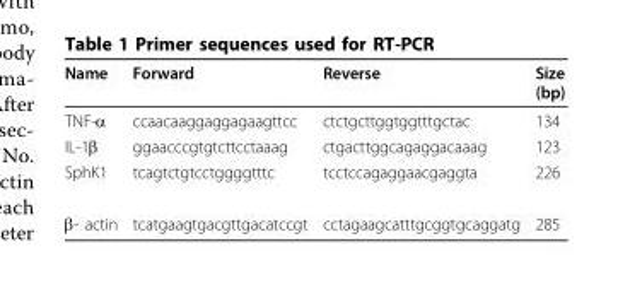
<table><thead><tr><td>Name</td><td>Forward</td><td>Reverse</td><td>Size (bp)</td></tr></thead><tbody><tr><td>TNF-α</td><td>ccaacaaggaggagaagttcc</td><td>ctctgcttggtggtttgctac</td><td>134</td></tr><tr><td>IL-1β</td><td>ggaacccgtgtcttcctaaag</td><td>ctgacttggcagaggacaaag</td><td>123</td></tr><tr><td>SphK1</td><td>tcagtctgtcctggggtttc</td><td>tcctccagaggaacgaggta</td><td>226</td></tr><tr><td>β- actin</td><td>tcatgaagtgacgttgacatccgt</td><td>cctagaagcatttgcggtgcaggatg</td><td>285</td></tr></tbody></table>